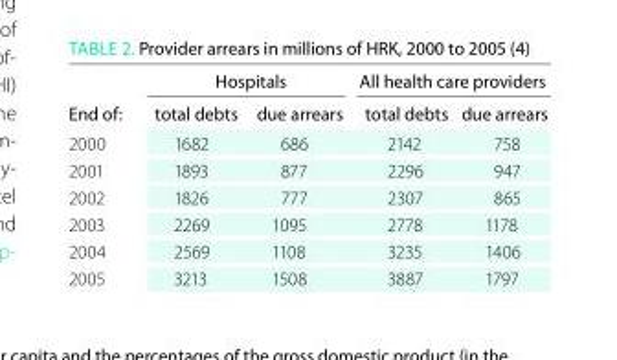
<table><thead><tr><td rowspan="2">end of:</td><td colspan="2">hospitals</td><td colspan="2">all health care providers</td></tr><tr><td>total debts</td><td>due arrears</td><td>total debts</td><td>due arrears</td></tr></thead><tbody><tr><td>2000</td><td>1682</td><td>686</td><td>2142</td><td>758</td></tr><tr><td>2001</td><td>1893</td><td>877</td><td>2296</td><td>947</td></tr><tr><td>2002</td><td>1826</td><td>777</td><td>2307</td><td>865</td></tr><tr><td>2003</td><td>2269</td><td>1095</td><td>2778</td><td>1178</td></tr><tr><td>2004</td><td>2569</td><td>1108</td><td>3235</td><td>1406</td></tr><tr><td>2005</td><td>3213</td><td>1508</td><td>3887</td><td>1797</td></tr></tbody></table>